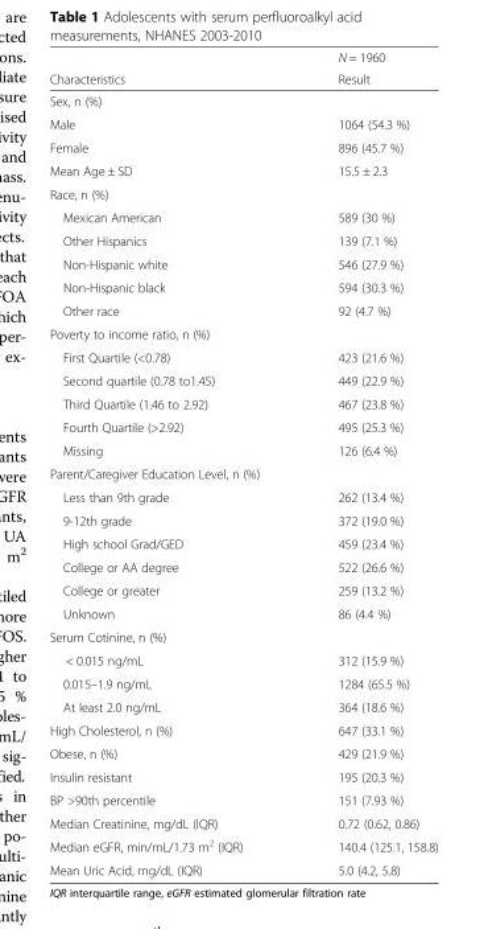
<table><thead><tr><td rowspan="2">Characteristics</td><td rowspan="2">N = 1960 Result</td></tr><tr></tr></thead><tbody><tr><td colspan="2">Sex, n (%)</td></tr><tr><td>Male</td><td>1064 (54.3 %)</td></tr><tr><td>Female</td><td>896 (45.7 %)</td></tr><tr><td>Mean Age ± SD</td><td>15.5 ± 2.3</td></tr><tr><td colspan="2">Race, n (%)</td></tr><tr><td>Mexican American</td><td>589 (30 %)</td></tr><tr><td>Other Hispanics</td><td>139 (7.1 %)</td></tr><tr><td>Non-Hispanic white</td><td>546 (27.9 %)</td></tr><tr><td>Non-Hispanic black</td><td>594 (30.3 %)</td></tr><tr><td>Other race</td><td>92 (4.7 %)</td></tr><tr><td colspan="2">Poverty to income ratio, n (%)</td></tr><tr><td>First Quartile (&lt;0.78)</td><td>423 (21.6 %)</td></tr><tr><td>Second quartile (0.78 to1.45)</td><td>449 (22.9 %)</td></tr><tr><td>Third Quartile (1.46 to 2.92)</td><td>467 (23.8 %)</td></tr><tr><td>Fourth Quartile (&gt;2.92)</td><td>495 (25.3 %)</td></tr><tr><td>Missing</td><td>126 (6.4 %)</td></tr><tr><td colspan="2">Parent/Caregiver Education Level, n (%)</td></tr><tr><td>Less than 9th grade</td><td>262 (13.4 %)</td></tr><tr><td>9-12th grade</td><td>372 (19.0 %)</td></tr><tr><td>High school Grad/GED</td><td>459 (23.4 %)</td></tr><tr><td>College or AA degree</td><td>522 (26.6 %)</td></tr><tr><td>College or greater</td><td>259 (13.2 %)</td></tr><tr><td>Unknown</td><td>86 (4.4 %)</td></tr><tr><td colspan="2">Serum Cotinine, n (%)</td></tr><tr><td>&lt; 0.015 ng/mL</td><td>312 (15.9 %)</td></tr><tr><td>0.015–1.9 ng/mL</td><td>1284 (65.5 %)</td></tr><tr><td>At least 2.0 ng/mL</td><td>364 (18.6 %)</td></tr><tr><td>High Cholesterol, n (%)</td><td>647 (33.1 %)</td></tr><tr><td>Obese, n (%)</td><td>429 (21.9 %)</td></tr><tr><td>Insulin resistant</td><td>195 (20.3 %)</td></tr><tr><td>BP &gt;90th percentile</td><td>151 (7.93 %)</td></tr><tr><td>Median Creatinine, mg/dL (IQR)</td><td>0.72 (0.62, 0.86)</td></tr><tr><td>Median eGFR, min/mL/1.73 m<sup>2</sup> (IQR)</td><td>140.4 (125.1, 158.8)</td></tr><tr><td>Mean Uric Acid, mg/dL (IQR)</td><td>5.0 (4.2, 5.8)</td></tr></tbody></table>